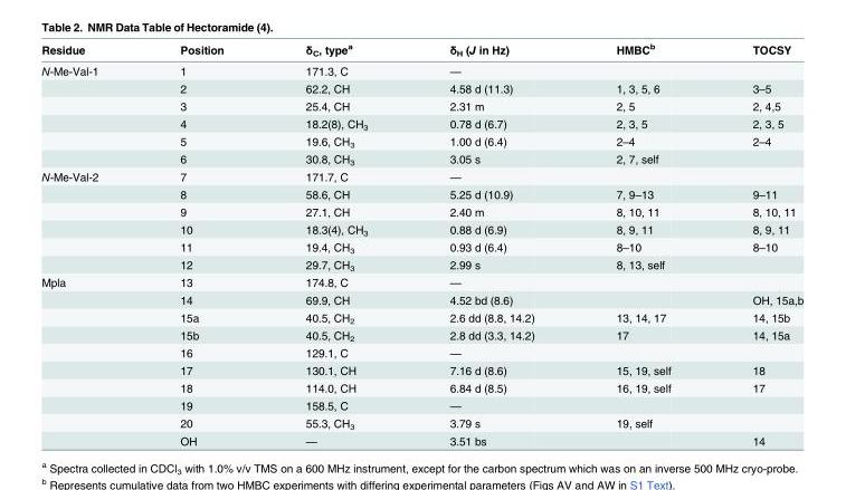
<table><thead><tr><td>Residue</td><td>Position</td><td>δ<sub>C</sub>, type<sup>a</sup></td><td>δ<sub>H</sub> (J in Hz)</td><td>HMBC<sup>b</sup></td><td>TOCSY</td></tr></thead><tbody><tr><td rowspan="6">N-Me-Val-1</td><td>1</td><td>171.3, C</td><td>—</td><td></td><td></td></tr><tr><td>2</td><td>62.2, CH</td><td>4.58 d (11.3)</td><td>1, 3, 5, 6</td><td>3–5</td></tr><tr><td>3</td><td>25.4, CH</td><td>2.31 m</td><td>2, 5</td><td>2, 4,5</td></tr><tr><td>4</td><td>18.2(8), CH<sub>3</sub></td><td>0.78 d (6.7)</td><td>2, 3, 5</td><td>2, 3, 5</td></tr><tr><td>5</td><td>19.6, CH<sub>3</sub></td><td>1.00 d (6.4)</td><td>2–4</td><td>2–4</td></tr><tr><td>6</td><td>30.8, CH<sub>3</sub></td><td>3.05 s</td><td>2, 7, self</td><td></td></tr><tr><td rowspan="6">N-Me-Val-2</td><td>7</td><td>171.7, C</td><td>—</td><td></td><td></td></tr><tr><td>8</td><td>58.6, CH</td><td>5.25 d (10.9)</td><td>7, 9–13</td><td>9–11</td></tr><tr><td>9</td><td>27.1, CH</td><td>2.40 m</td><td>8, 10, 11</td><td>8, 10, 11</td></tr><tr><td>10</td><td>18.3(4), CH<sub>3</sub></td><td>0.88 d (6.9)</td><td>8, 9, 11</td><td>8, 9, 11</td></tr><tr><td>11</td><td>19.4, CH<sub>3</sub></td><td>0.93 d (6.4)</td><td>8–10</td><td>8–10</td></tr><tr><td>12</td><td>29.7, CH<sub>3</sub></td><td>2.99 s</td><td>8, 13, self</td><td></td></tr><tr><td rowspan="10">Mpla</td><td>13</td><td>174.8, C</td><td>—</td><td></td><td></td></tr><tr><td>14</td><td>69.9, CH</td><td>4.52 bd (8.6)</td><td></td><td>OH, 15a,b</td></tr><tr><td>15a</td><td>40.5, CH<sub>2</sub></td><td>2.6 dd (8.8, 14.2)</td><td>13, 14, 17</td><td>14, 15b</td></tr><tr><td>15b</td><td>40.5, CH<sub>2</sub></td><td>2.8 dd (3.3, 14.2)</td><td>17</td><td>14, 15a</td></tr><tr><td>16</td><td>129.1, C</td><td>—</td><td></td><td></td></tr><tr><td>17</td><td>130.1, CH</td><td>7.16 d (8.6)</td><td>15, 19, self</td><td>18</td></tr><tr><td>18</td><td>114.0, CH</td><td>6.84 d (8.5)</td><td>16, 19, self</td><td>17</td></tr><tr><td>19</td><td>158.5, C</td><td>—</td><td></td><td></td></tr><tr><td>20</td><td>55.3, CH<sub>3</sub></td><td>3.79 s</td><td>19, self</td><td></td></tr><tr><td>OH</td><td>—</td><td>3.51 bs</td><td></td><td>14</td></tr></tbody></table>